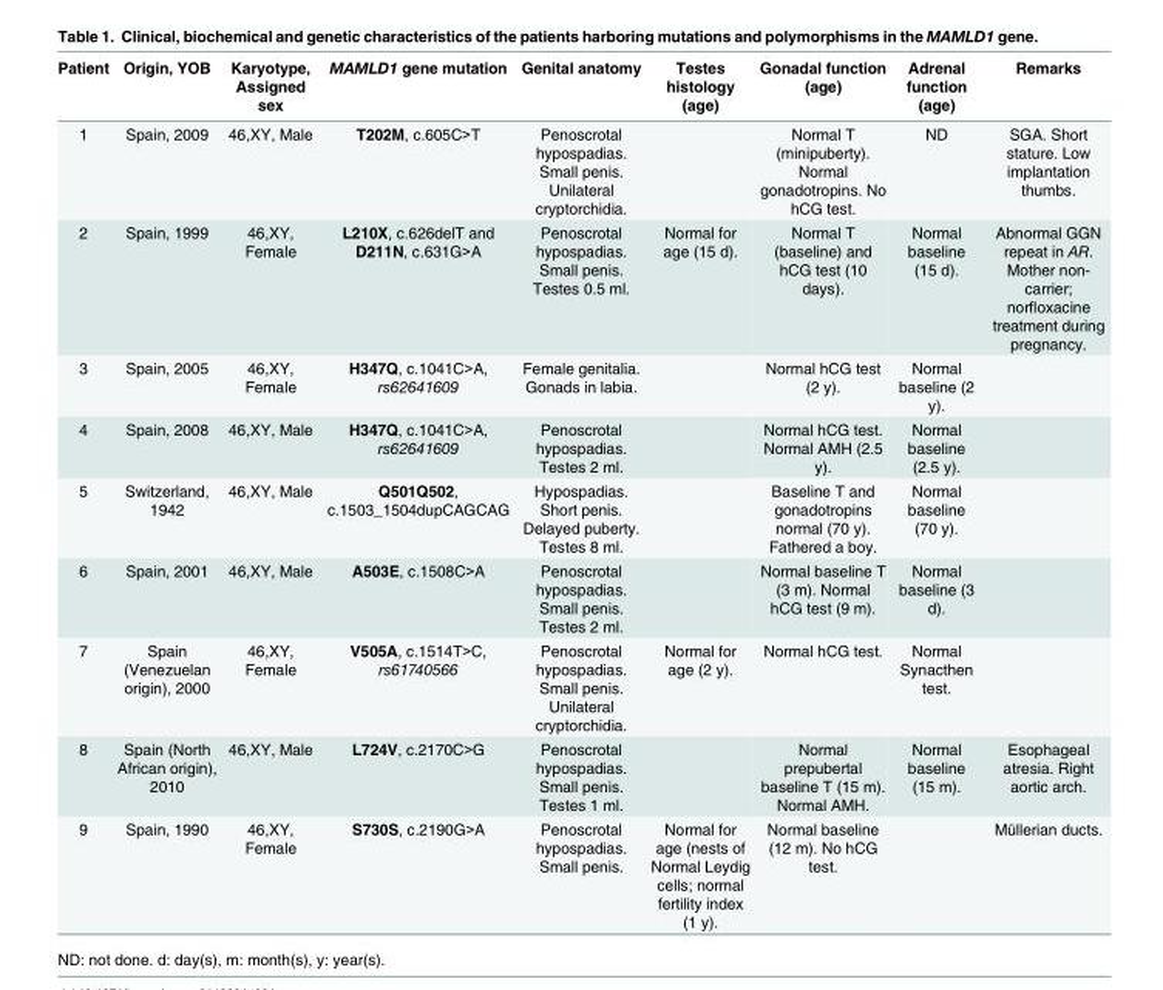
<table><thead><tr><td>Patient</td><td>Origin, YOB</td><td>Karyotype, Assigned sex</td><td>MAMLD1 gene mutation</td><td>Genital anatomy</td><td>Testes histology (age)</td><td>Gonadal function (age)</td><td>Adrenal function (age)</td><td>Remarks</td></tr></thead><tbody><tr><td>1</td><td>Spain, 2009</td><td>46,XY, Male</td><td>T202M, c.605C&gt;T</td><td>Penoscrotal hypospadias. Small penis. Unilateral cryptorchidia.</td><td></td><td>Normal T (minipuberty). Normal gonadotropins. No hCG test.</td><td>ND</td><td>SGA. Short stature. Low implantation thumbs.</td></tr><tr><td>2</td><td>Spain, 1999</td><td>46,XY, Female</td><td>L210X, c.626delT and D211N, c.631G&gt;A</td><td>Penoscrotal hypospadias. Small penis. Testes 0.5 ml.</td><td>Normal for age (15 d).</td><td>Normal T (baseline) and hCG test (10 days).</td><td>Normal baseline (15 d).</td><td>Abnormal GGN repeat in AR. Mother non- carrier; norfloxacine treatment during pregnancy.</td></tr><tr><td>3</td><td>Spain, 2005</td><td>46,XY, Female</td><td>H347Q, c.1041C&gt;A, rs62641609</td><td>Female genitalia. Gonads in labia.</td><td></td><td>Normal hCG test (2 y).</td><td>Normal baseline (2 y).</td><td></td></tr><tr><td>4</td><td>Spain, 2008</td><td>46,XY, Male</td><td>H347Q, c.1041C&gt;A, rs62641609</td><td>Penoscrotal hypospadias. Testes 2 ml.</td><td></td><td>Normal hCG test. Normal AMH (2.5 y).</td><td>Normal baseline (2.5 y).</td><td></td></tr><tr><td>5</td><td>Switzerland, 1942</td><td>46,XY, Male</td><td>Q501Q502, c.1503_1504dupCAGCAG</td><td>Hypospadias. Short penis. Delayed puberty. Testes 8 ml.</td><td></td><td>Baseline T and gonadotropins normal (70 y). Fathered a boy.</td><td>Normal baseline (70 y).</td><td></td></tr><tr><td>6</td><td>Spain, 2001</td><td>46,XY, Male</td><td>A503E, c.1508C&gt;A</td><td>Penoscrotal hypospadias. Small penis. Testes 2 ml.</td><td></td><td>Normal baseline T (3 m). Normal hCG test (9 m).</td><td>Normal baseline (3 d).</td><td></td></tr><tr><td>7</td><td>Spain (Venezuelan origin), 2000</td><td>46,XY, Female</td><td>V505A, c.1514T&gt;C, rs61740566</td><td>Penoscrotal hypospadias. Small penis. Unilateral cryptorchidia.</td><td>Normal for age (2 y).</td><td>Normal hCG test.</td><td>Normal Synacthen test.</td><td></td></tr><tr><td>8</td><td>Spain (North African origin), 2010</td><td>46,XY, Male</td><td>L724V, c.2170C&gt;G</td><td>Penoscrotal hypospadias. Small penis. Testes 1 ml.</td><td></td><td>Normal prepubertal baseline T (15 m). Normal AMH.</td><td>Normal baseline (15 m).</td><td>Esophageal atresia. Right aortic arch.</td></tr><tr><td>9</td><td>Spain, 1990</td><td>46,XY, Female</td><td>S730S, c.2190G&gt;A</td><td>Penoscrotal hypospadias. Small penis.</td><td>Normal for age (nests of Normal Leydig cells; normal fertility index (1 y).</td><td>Normal baseline (12 m). No hCG test.</td><td></td><td>Müllerian ducts.</td></tr></tbody></table>